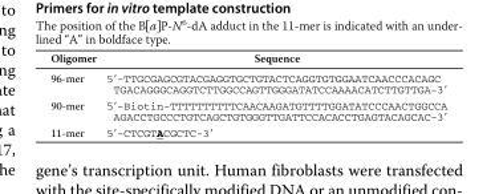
<table><thead><tr><td>Oligomer</td><td>Sequence</td></tr></thead><tbody><tr><td>96-mer</td><td>5′-TTGCGAGCGTACGAGGTGCTGTACTCAGGTGTGGAATCAACCCACAGC TGACAGGGCAGGTCTTGGCCAGTTGGGATATCCAAAACATCTTGTTGA-3′</td></tr><tr><td>90-mer</td><td>5′-Biotin-TTTTTTTTTTCAACAAGATGTTTTGGATATCCCAACTGGCCA AGACCTGCCCTGTCAGCTGTGGGTTGATTCCACACCTGAGTACAGCAC-3′</td></tr><tr><td>11-mer</td><td>5′-CTCGTACGCTC-3′</td></tr></tbody></table>